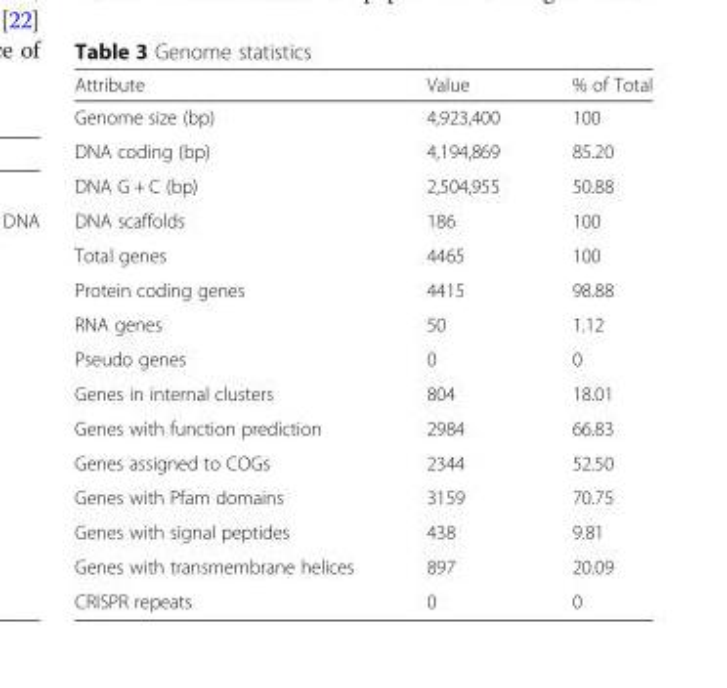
<table><thead><tr><td>Attribute</td><td>Value</td><td>% of Total</td></tr></thead><tbody><tr><td>Genome size (bp)</td><td>4,923,400</td><td>100</td></tr><tr><td>DNA coding (bp)</td><td>4,194,869</td><td>85.20</td></tr><tr><td>DNA G + C (bp)</td><td>2,504,955</td><td>50.88</td></tr><tr><td>DNA scaffolds</td><td>186</td><td>100</td></tr><tr><td>Total genes</td><td>4465</td><td>100</td></tr><tr><td>Protein coding genes</td><td>4415</td><td>98.88</td></tr><tr><td>RNA genes</td><td>50</td><td>1.12</td></tr><tr><td>Pseudo genes</td><td>0</td><td>0</td></tr><tr><td>Genes in internal clusters</td><td>804</td><td>18.01</td></tr><tr><td>Genes with function prediction</td><td>2984</td><td>66.83</td></tr><tr><td>Genes assigned to COGs</td><td>2344</td><td>52.50</td></tr><tr><td>Genes with Pfam domains</td><td>3159</td><td>70.75</td></tr><tr><td>Genes with signal peptides</td><td>438</td><td>9.81</td></tr><tr><td>Genes with transmembrane helices</td><td>897</td><td>20.09</td></tr><tr><td>CRISPR repeats</td><td>0</td><td>0</td></tr></tbody></table>